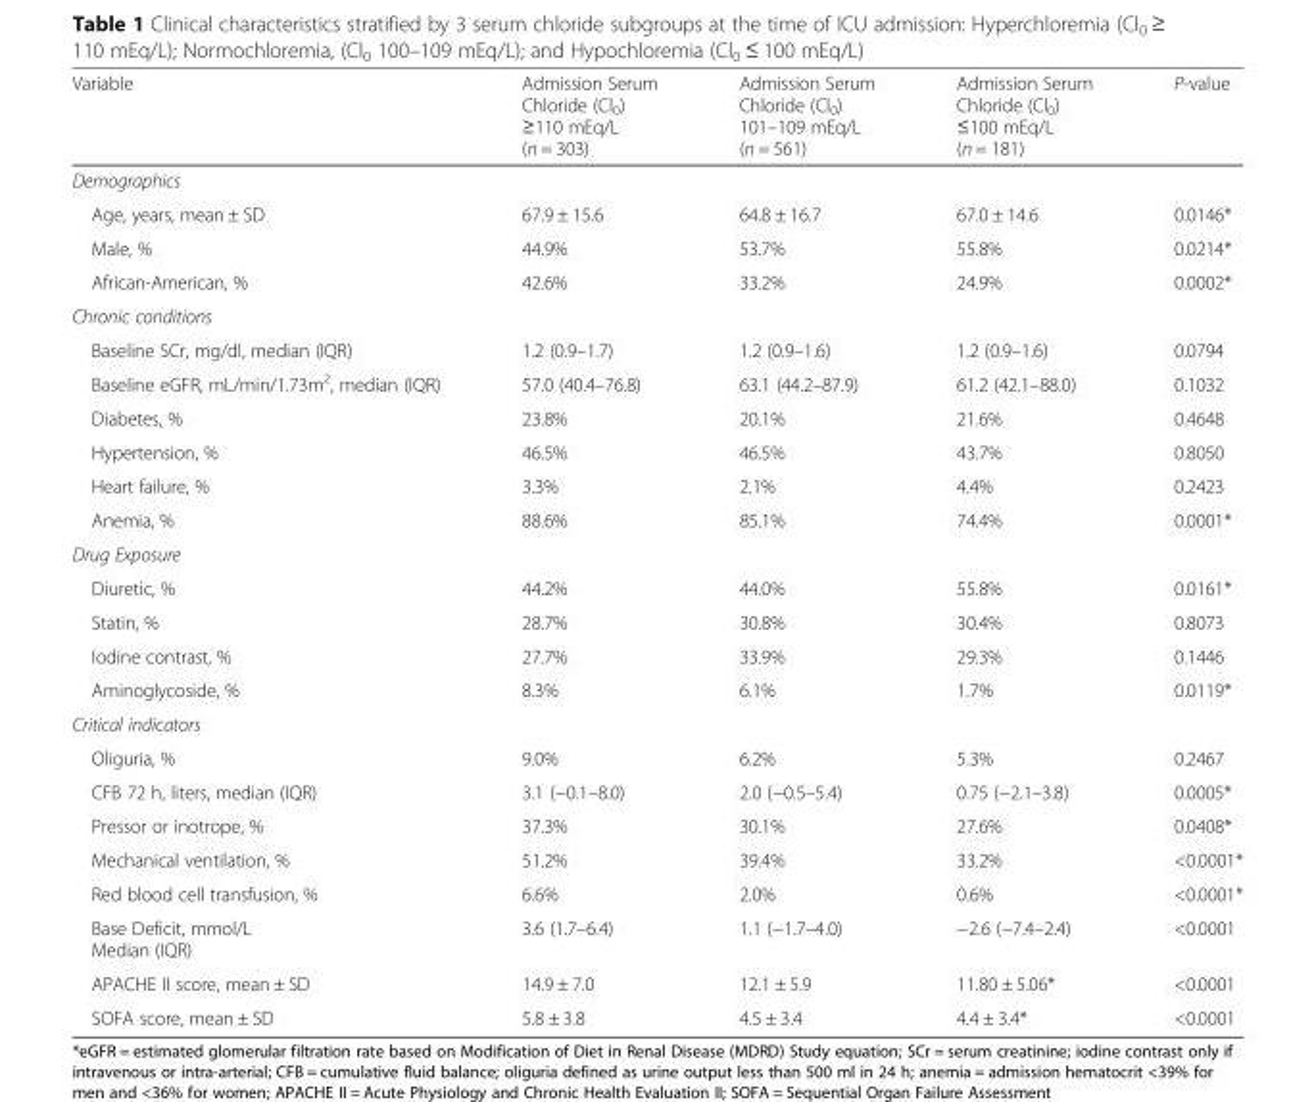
<table><thead><tr><td>Variable</td><td>Admission Serum Chloride (Cl<sub>0</sub>) ≥110 mEq/L (n = 303)</td><td>Admission Serum Chloride (Cl<sub>0</sub>) 101–109 mEq/L (n = 561)</td><td>Admission Serum Chloride (Cl<sub>0</sub>) ≤100 mEq/L (n = 181)</td><td>P-value</td></tr></thead><tbody><tr><td colspan="5">Demographics</td></tr><tr><td>Age, years, mean ± SD</td><td>67.9 ± 15.6</td><td>64.8 ± 16.7</td><td>67.0 ± 14.6</td><td>0.0146*</td></tr><tr><td>Male, %</td><td>44.9%</td><td>53.7%</td><td>55.8%</td><td>0.0214*</td></tr><tr><td>African-American, %</td><td>42.6%</td><td>33.2%</td><td>24.9%</td><td>0.0002*</td></tr><tr><td colspan="5">Chronic conditions</td></tr><tr><td>Baseline SCr, mg/dl, median (IQR)</td><td>1.2 (0.9–1.7)</td><td>1.2 (0.9–1.6)</td><td>1.2 (0.9–1.6)</td><td>0.0794</td></tr><tr><td>Baseline eGFR, mL/min/1.73m<sup>2</sup>, median (IQR)</td><td>57.0 (40.4–76.8)</td><td>63.1 (44.2–87.9)</td><td>61.2 (42.1–88.0)</td><td>0.1032</td></tr><tr><td>Diabetes, %</td><td>23.8%</td><td>20.1%</td><td>21.6%</td><td>0.4648</td></tr><tr><td>Hypertension, %</td><td>46.5%</td><td>46.5%</td><td>43.7%</td><td>0.8050</td></tr><tr><td>Heart failure, %</td><td>3.3%</td><td>2.1%</td><td>4.4%</td><td>0.2423</td></tr><tr><td>Anemia, %</td><td>88.6%</td><td>85.1%</td><td>74.4%</td><td>0.0001*</td></tr><tr><td colspan="5">Drug Exposure</td></tr><tr><td>Diuretic, %</td><td>44.2%</td><td>44.0%</td><td>55.8%</td><td>0.0161*</td></tr><tr><td>Statin, %</td><td>28.7%</td><td>30.8%</td><td>30.4%</td><td>0.8073</td></tr><tr><td>Iodine contrast, %</td><td>27.7%</td><td>33.9%</td><td>29.3%</td><td>0.1446</td></tr><tr><td>Aminoglycoside, %</td><td>8.3%</td><td>6.1%</td><td>1.7%</td><td>0.0119*</td></tr><tr><td colspan="5">Critical indicators</td></tr><tr><td>Oliguria, %</td><td>9.0%</td><td>6.2%</td><td>5.3%</td><td>0.2467</td></tr><tr><td>CFB 72 h, liters, median (IQR)</td><td>3.1 (−0.1–8.0)</td><td>2.0 (−0.5–5.4)</td><td>0.75 (−2.1–3.8)</td><td>0.0005*</td></tr><tr><td>Pressor or inotrope, %</td><td>37.3%</td><td>30.1%</td><td>27.6%</td><td>0.0408*</td></tr><tr><td>Mechanical ventilation, %</td><td>51.2%</td><td>39.4%</td><td>33.2%</td><td>&lt;0.0001*</td></tr><tr><td>Red blood cell transfusion, %</td><td>6.6%</td><td>2.0%</td><td>0.6%</td><td>&lt;0.0001*</td></tr><tr><td>Base Deficit, mmol/L Median (IQR)</td><td>3.6 (1.7–6.4)</td><td>1.1 (−1.7–4.0)</td><td>−2.6 (−7.4–2.4)</td><td>&lt;0.0001</td></tr><tr><td>APACHE II score, mean ± SD</td><td>14.9 ± 7.0</td><td>12.1 ± 5.9</td><td>11.80 ± 5.06*</td><td>&lt;0.0001</td></tr><tr><td>SOFA score, mean ± SD</td><td>5.8 ± 3.8</td><td>4.5 ± 3.4</td><td>4.4 ± 3.4*</td><td>&lt;0.0001</td></tr></tbody></table>